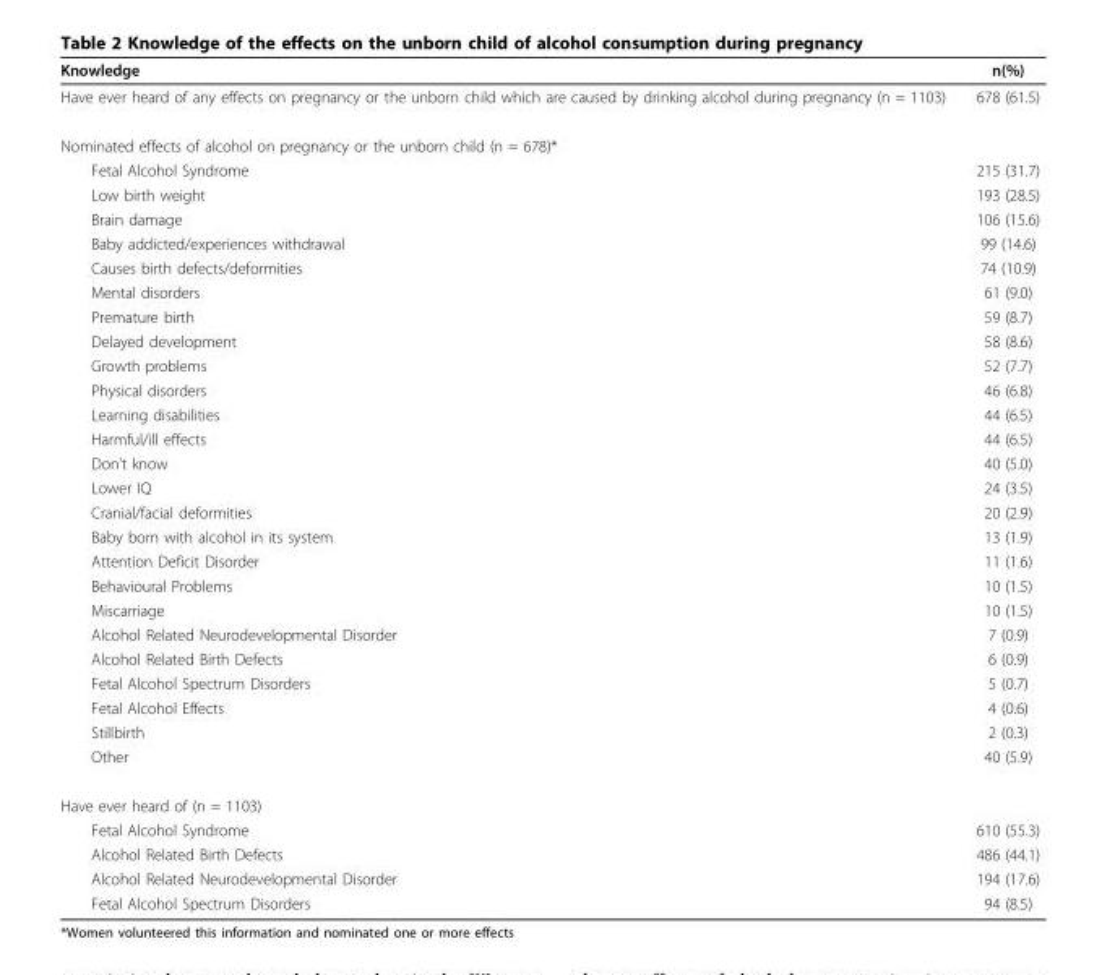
<table><thead><tr><td>Knowledge</td><td>n(%)</td></tr></thead><tbody><tr><td>Have ever heard of any effects on pregnancy or the unborn child which are caused by drinking alcohol during pregnancy (n = 1103)</td><td>678 (61.5)</td></tr><tr><td colspan="2">Nominated effects of alcohol on pregnancy or the unborn child (n = 678)*</td></tr><tr><td>Fetal Alcohol Syndrome</td><td>215 (31.7)</td></tr><tr><td>Low birth weight</td><td>193 (28.5)</td></tr><tr><td>Brain damage</td><td>106 (15.6)</td></tr><tr><td>Baby addicted/experiences withdrawal</td><td>99 (14.6)</td></tr><tr><td>Causes birth defects/deformities</td><td>74 (10.9)</td></tr><tr><td>Mental disorders</td><td>61 (9.0)</td></tr><tr><td>Premature birth</td><td>59 (8.7)</td></tr><tr><td>Delayed development</td><td>58 (8.6)</td></tr><tr><td>Growth problems</td><td>52 (7.7)</td></tr><tr><td>Physical disorders</td><td>46 (6.8)</td></tr><tr><td>Learning disabilities</td><td>44 (6.5)</td></tr><tr><td>Harmful/ill effects</td><td>44 (6.5)</td></tr><tr><td>Don’t know</td><td>40 (5.0)</td></tr><tr><td>Lower IQ</td><td>24 (3.5)</td></tr><tr><td>Cranial/facial deformities</td><td>20 (2.9)</td></tr><tr><td>Baby born with alcohol in its system</td><td>13 (1.9)</td></tr><tr><td>Attention Deficit Disorder</td><td>11 (1.6)</td></tr><tr><td>Behavioural Problems</td><td>10 (1.5)</td></tr><tr><td>Miscarriage</td><td>10 (1.5)</td></tr><tr><td>Alcohol Related Neurodevelopmental Disorder</td><td>7 (0.9)</td></tr><tr><td>Alcohol Related Birth Defects</td><td>6 (0.9)</td></tr><tr><td>Fetal Alcohol Spectrum Disorders</td><td>5 (0.7)</td></tr><tr><td>Fetal Alcohol Effects</td><td>4 (0.6)</td></tr><tr><td>Stillbirth</td><td>2 (0.3)</td></tr><tr><td>Other</td><td>40 (5.9)</td></tr><tr><td colspan="2">Have ever heard of (n = 1103)</td></tr><tr><td>Fetal Alcohol Syndrome</td><td>610 (55.3)</td></tr><tr><td>Alcohol Related Birth Defects</td><td>486 (44.1)</td></tr><tr><td>Alcohol Related Neurodevelopmental Disorder</td><td>194 (17.6)</td></tr><tr><td>Fetal Alcohol Spectrum Disorders</td><td>94 (8.5)</td></tr></tbody></table>